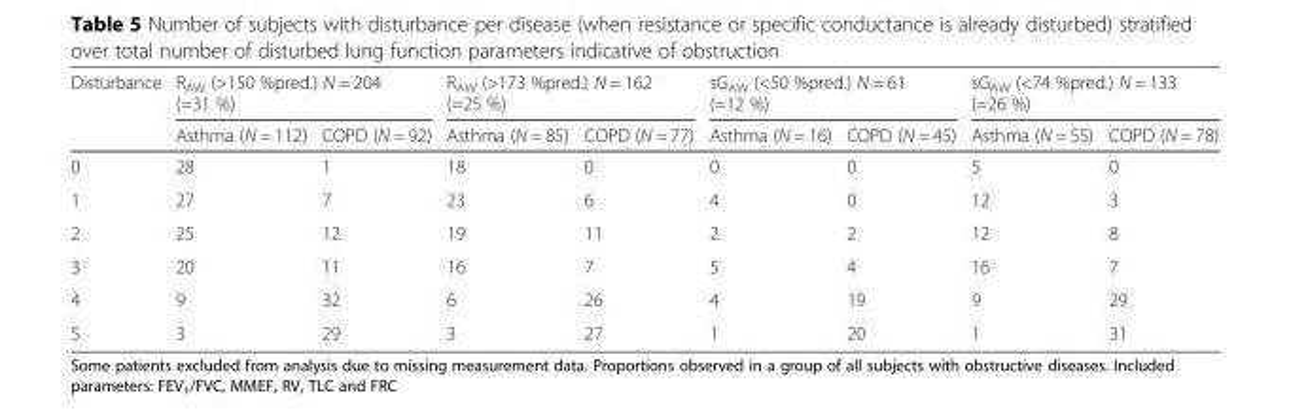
<table><thead><tr><td rowspan="2">Disturbance</td><td colspan="2">R<sub>AW</sub> (&gt;150 %pred.) N = 204 (=31 %)</td><td colspan="2">R<sub>AW</sub> (&gt;173 %pred.) N = 162 (=25 %)</td><td colspan="2">sG<sub>AW</sub> (&lt;50 %pred.) N = 61 (=12 %)</td><td colspan="2">sG<sub>AW</sub> (&lt;74 %pred.) N = 133 (=26 %)</td></tr><tr><td>Asthma (N = 112)</td><td>COPD (N = 92)</td><td>Asthma (N = 85)</td><td>COPD (N = 77)</td><td>Asthma (N = 16)</td><td>COPD (N = 45)</td><td>Asthma (N = 55)</td><td>COPD (N = 78)</td></tr></thead><tbody><tr><td>0</td><td>28</td><td>1</td><td>18</td><td>0</td><td>0</td><td>0</td><td>5</td><td>0</td></tr><tr><td>1</td><td>27</td><td>7</td><td>23</td><td>6</td><td>4</td><td>0</td><td>12</td><td>3</td></tr><tr><td>2</td><td>25</td><td>12</td><td>19</td><td>11</td><td>2</td><td>2</td><td>12</td><td>8</td></tr><tr><td>3</td><td>20</td><td>11</td><td>16</td><td>7</td><td>5</td><td>4</td><td>16</td><td>7</td></tr><tr><td>4</td><td>9</td><td>32</td><td>6</td><td>26</td><td>4</td><td>19</td><td>9</td><td>29</td></tr><tr><td>5</td><td>3</td><td>29</td><td>3</td><td>27</td><td>1</td><td>20</td><td>1</td><td>31</td></tr></tbody></table>